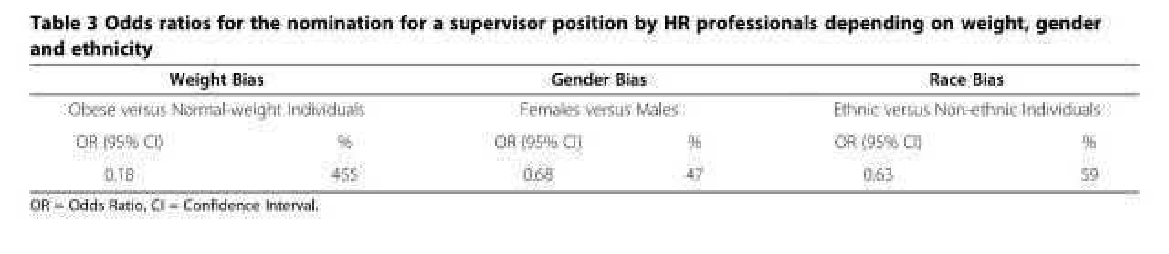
<table><thead><tr><td rowspan="2" colspan="2">Weight Bias Obese versus Normal-weight Individuals</td><td rowspan="2" colspan="2">Gender Bias Females versus Males</td><td rowspan="2" colspan="2">Race Bias Ethnic versus Non-ethnic Individuals</td></tr><tr></tr><tr><td>OR (95% CI)</td><td>%</td><td>OR (95% CI)</td><td>%</td><td>OR (95% CI)</td><td>%</td></tr></thead><tbody><tr><td>0.18</td><td>455</td><td>0.68</td><td>47</td><td>0.63</td><td>59</td></tr></tbody></table>